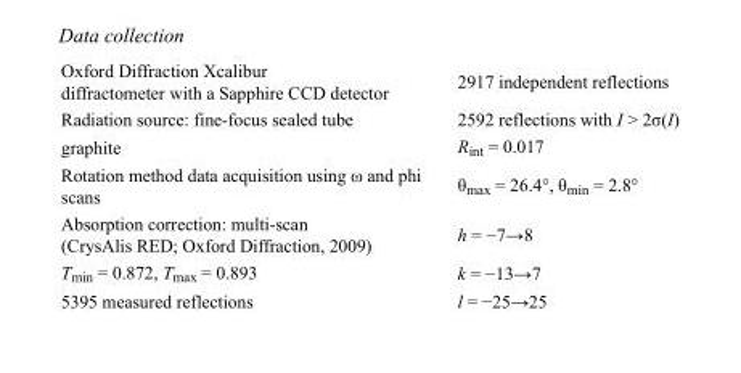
<table><tbody><tr><td>Oxford Diffraction Xcalibur diffractometer with a Sapphire CCD detector</td><td>2917 independent reflections</td></tr><tr><td>Radiation source: fine-focus sealed tube</td><td>2592 reflections with I &gt; 2σ(I)</td></tr><tr><td>graphite</td><td>R<sub>int</sub> = 0.017</td></tr><tr><td>Rotation method data acquisition using ω and phi scans</td><td>θ<sub>max</sub> = 26.4°, θ<sub>min</sub> = 2.8°</td></tr><tr><td>Absorption correction: multi-scan (CrysAlis RED; Oxford Diffraction, 2009)</td><td>h = −7→8</td></tr><tr><td>T<sub>min</sub> = 0.872, T<sub>max</sub> = 0.893</td><td>k = −13→7</td></tr><tr><td>5395 measured reflections</td><td>l = −25→25</td></tr></tbody></table>